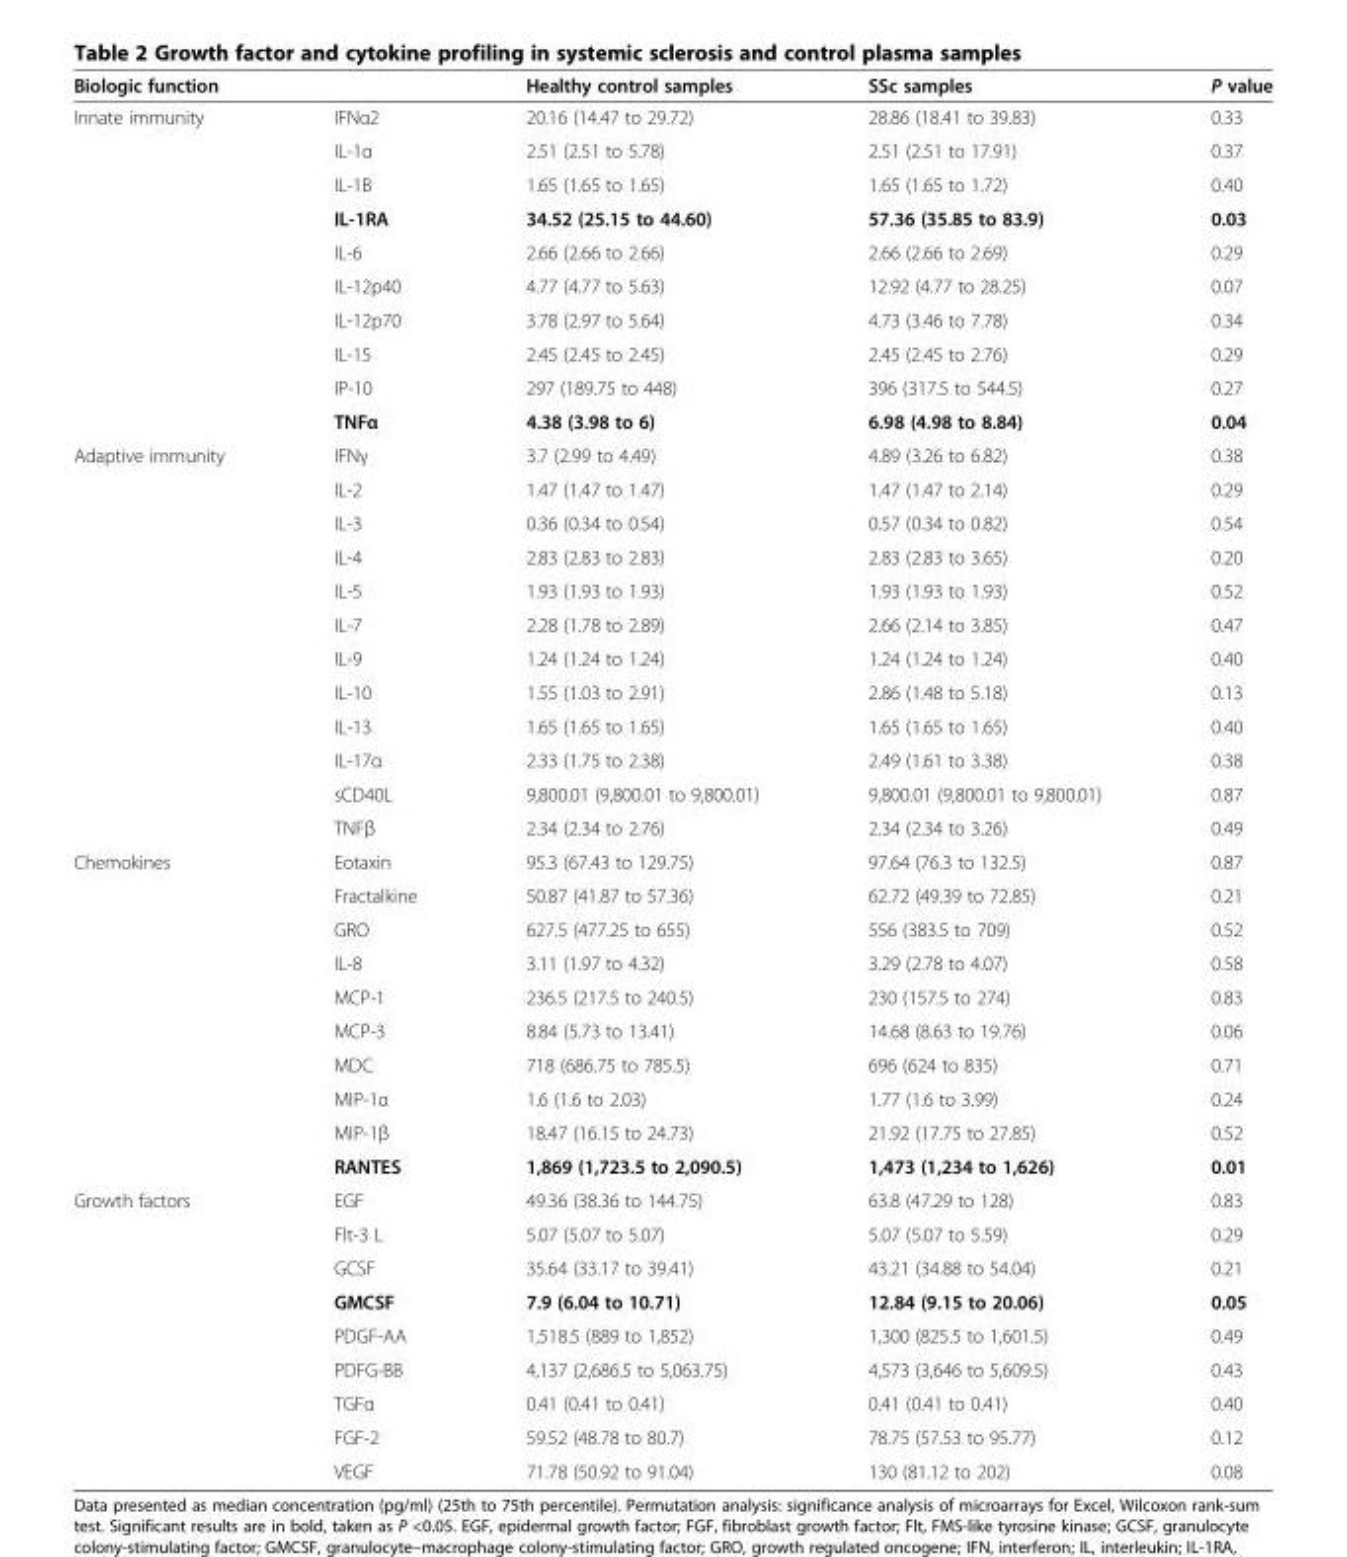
<table><thead><tr><td>Biologic function</td><td></td><td>Healthy control samples</td><td>SSc samples</td><td>P value</td></tr></thead><tbody><tr><td rowspan="10">Innate immunity</td><td>IFNα2</td><td>20.16 (14.47 to 29.72)</td><td>28.86 (18.41 to 39.83)</td><td>0.33</td></tr><tr><td>IL-1α</td><td>2.51 (2.51 to 5.78)</td><td>2.51 (2.51 to 17.91)</td><td>0.37</td></tr><tr><td>IL-1B</td><td>1.65 (1.65 to 1.65)</td><td>1.65 (1.65 to 1.72)</td><td>0.40</td></tr><tr><td>IL-1RA</td><td>34.52 (25.15 to 44.60)</td><td>57.36 (35.85 to 83.9)</td><td>0.03</td></tr><tr><td>IL-6</td><td>2.66 (2.66 to 2.66)</td><td>2.66 (2.66 to 2.69)</td><td>0.29</td></tr><tr><td>IL-12p40</td><td>4.77 (4.77 to 5.63)</td><td>12.92 (4.77 to 28.25)</td><td>0.07</td></tr><tr><td>IL-12p70</td><td>3.78 (2.97 to 5.64)</td><td>4.73 (3.46 to 7.78)</td><td>0.34</td></tr><tr><td>IL-15</td><td>2.45 (2.45 to 2.45)</td><td>2.45 (2.45 to 2.76)</td><td>0.29</td></tr><tr><td>IP-10</td><td>297 (189.75 to 448)</td><td>396 (317.5 to 544.5)</td><td>0.27</td></tr><tr><td>TNFα</td><td>4.38 (3.98 to 6)</td><td>6.98 (4.98 to 8.84)</td><td>0.04</td></tr><tr><td rowspan="12">Adaptive immunity</td><td>IFNγ</td><td>3.7 (2.99 to 4.49)</td><td>4.89 (3.26 to 6.82)</td><td>0.38</td></tr><tr><td>IL-2</td><td>1.47 (1.47 to 1.47)</td><td>1.47 (1.47 to 2.14)</td><td>0.29</td></tr><tr><td>IL-3</td><td>0.36 (0.34 to 0.54)</td><td>0.57 (0.34 to 0.82)</td><td>0.54</td></tr><tr><td>IL-4</td><td>2.83 (2.83 to 2.83)</td><td>2.83 (2.83 to 3.65)</td><td>0.20</td></tr><tr><td>IL-5</td><td>1.93 (1.93 to 1.93)</td><td>1.93 (1.93 to 1.93)</td><td>0.52</td></tr><tr><td>IL-7</td><td>2.28 (1.78 to 2.89)</td><td>2.66 (2.14 to 3.85)</td><td>0.47</td></tr><tr><td>IL-9</td><td>1.24 (1.24 to 1.24)</td><td>1.24 (1.24 to 1.24)</td><td>0.40</td></tr><tr><td>IL-10</td><td>1.55 (1.03 to 2.91)</td><td>2.86 (1.48 to 5.18)</td><td>0.13</td></tr><tr><td>IL-13</td><td>1.65 (1.65 to 1.65)</td><td>1.65 (1.65 to 1.65)</td><td>0.40</td></tr><tr><td>IL-17α</td><td>2.33 (1.75 to 2.38)</td><td>2.49 (1.61 to 3.38)</td><td>0.38</td></tr><tr><td>sCD40L</td><td>9,800.01 (9,800.01 to 9,800.01)</td><td>9,800.01 (9,800.01 to 9,800.01)</td><td>0.87</td></tr><tr><td>TNFβ</td><td>2.34 (2.34 to 2.76)</td><td>2.34 (2.34 to 3.26)</td><td>0.49</td></tr><tr><td rowspan="10">Chemokines</td><td>Eotaxin</td><td>95.3 (67.43 to 129.75)</td><td>97.64 (76.3 to 132.5)</td><td>0.87</td></tr><tr><td>Fractalkine</td><td>50.87 (41.87 to 57.36)</td><td>62.72 (49.39 to 72.85)</td><td>0.21</td></tr><tr><td>GRO</td><td>627.5 (477.25 to 655)</td><td>556 (383.5 to 709)</td><td>0.52</td></tr><tr><td>IL-8</td><td>3.11 (1.97 to 4.32)</td><td>3.29 (2.78 to 4.07)</td><td>0.58</td></tr><tr><td>MCP-1</td><td>236.5 (217.5 to 240.5)</td><td>230 (157.5 to 274)</td><td>0.83</td></tr><tr><td>MCP-3</td><td>8.84 (5.73 to 13.41)</td><td>14.68 (8.63 to 19.76)</td><td>0.06</td></tr><tr><td>MDC</td><td>718 (686.75 to 785.5)</td><td>696 (624 to 835)</td><td>0.71</td></tr><tr><td>MIP-1α</td><td>1.6 (1.6 to 2.03)</td><td>1.77 (1.6 to 3.99)</td><td>0.24</td></tr><tr><td>MIP-1β</td><td>18.47 (16.15 to 24.73)</td><td>21.92 (17.75 to 27.85)</td><td>0.52</td></tr><tr><td>RANTES</td><td>1,869 (1,723.5 to 2,090.5)</td><td>1,473 (1,234 to 1,626)</td><td>0.01</td></tr><tr><td rowspan="9">Growth factors</td><td>EGF</td><td>49.36 (38.36 to 144.75)</td><td>63.8 (47.29 to 128)</td><td>0.83</td></tr><tr><td>Flt-3 L</td><td>5.07 (5.07 to 5.07)</td><td>5.07 (5.07 to 5.59)</td><td>0.29</td></tr><tr><td>GCSF</td><td>35.64 (33.17 to 39.41)</td><td>43.21 (34.88 to 54.04)</td><td>0.21</td></tr><tr><td>GMCSF</td><td>7.9 (6.04 to 10.71)</td><td>12.84 (9.15 to 20.06)</td><td>0.05</td></tr><tr><td>PDGF-AA</td><td>1,518.5 (889 to 1,852)</td><td>1,300 (825.5 to 1,601.5)</td><td>0.49</td></tr><tr><td>PDFG-BB</td><td>4,137 (2,686.5 to 5,063.75)</td><td>4,573 (3,646 to 5,609.5)</td><td>0.43</td></tr><tr><td>TGFα</td><td>0.41 (0.41 to 0.41)</td><td>0.41 (0.41 to 0.41)</td><td>0.40</td></tr><tr><td>FGF-2</td><td>59.52 (48.78 to 80.7)</td><td>78.75 (57.53 to 95.77)</td><td>0.12</td></tr><tr><td>VEGF</td><td>71.78 (50.92 to 91.04)</td><td>130 (81.12 to 202)</td><td>0.08</td></tr></tbody></table>